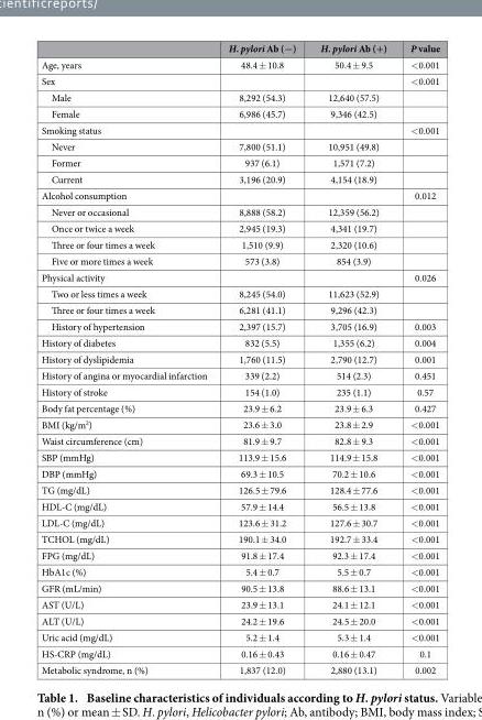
<table><thead><tr><td></td><td>H. pylori Ab (−)</td><td>H. pylori Ab (+)</td><td>P value</td></tr></thead><tbody><tr><td>Age, years</td><td>48.4 ± 10.8</td><td>50.4 ± 9.5</td><td>&lt; 0.001</td></tr><tr><td>Sex</td><td></td><td></td><td>&lt; 0.001</td></tr><tr><td>Male</td><td>8,292 (54.3)</td><td>12,640 (57.5)</td><td></td></tr><tr><td>Female</td><td>6,986 (45.7)</td><td>9,346 (42.5)</td><td></td></tr><tr><td>Smoking status</td><td></td><td></td><td>&lt; 0.001</td></tr><tr><td>Never</td><td>7,800 (51.1)</td><td>10,951 (49.8)</td><td></td></tr><tr><td>Former</td><td>937 (6.1)</td><td>1,571 (7.2)</td><td></td></tr><tr><td>Current</td><td>3,196 (20.9)</td><td>4,154 (18.9)</td><td></td></tr><tr><td>Alcohol consumption</td><td></td><td></td><td>0.012</td></tr><tr><td>Never or occasional</td><td>8,888 (58.2)</td><td>12,359 (56.2)</td><td></td></tr><tr><td>Once or twice a week</td><td>2,945 (19.3)</td><td>4,341 (19.7)</td><td></td></tr><tr><td>Three or four times a week</td><td>1,510 (9.9)</td><td>2,320 (10.6)</td><td></td></tr><tr><td>Five or more times a week</td><td>573 (3.8)</td><td>854 (3.9)</td><td></td></tr><tr><td>Physical activity</td><td></td><td></td><td>0.026</td></tr><tr><td>Two or less times a week</td><td>8,245 (54.0)</td><td>11,623 (52.9)</td><td></td></tr><tr><td>Three or four times a week</td><td>6,281 (41.1)</td><td>9,296 (42.3)</td><td></td></tr><tr><td>History of hypertension</td><td>2,397 (15.7)</td><td>3,705 (16.9)</td><td>0.003</td></tr><tr><td>History of diabetes</td><td>832 (5.5)</td><td>1,355 (6.2)</td><td>0.004</td></tr><tr><td>History of dyslipidemia</td><td>1,760 (11.5)</td><td>2,790 (12.7)</td><td>0.001</td></tr><tr><td>History of angina or myocardial infarction</td><td>339 (2.2)</td><td>514 (2.3)</td><td>0.451</td></tr><tr><td>History of stroke</td><td>154 (1.0)</td><td>235 (1.1)</td><td>0.57</td></tr><tr><td>Body fat percentage (%)</td><td>23.9 ± 6.2</td><td>23.9 ± 6.3</td><td>0.427</td></tr><tr><td>BMI (kg/m<sup>2</sup>)</td><td>23.6 ± 3.0</td><td>23.8 ± 2.9</td><td>&lt; 0.001</td></tr><tr><td>Waist circumference (cm)</td><td>81.9 ± 9.7</td><td>82.8 ± 9.3</td><td>&lt; 0.001</td></tr><tr><td>SBP (mmHg)</td><td>113.9 ± 15.6</td><td>114.9 ± 15.8</td><td>&lt; 0.001</td></tr><tr><td>DBP (mmHg)</td><td>69.3 ± 10.5</td><td>70.2 ± 10.6</td><td>&lt; 0.001</td></tr><tr><td>TG (mg/dL)</td><td>126.5 ± 79.6</td><td>128.4 ± 77.6</td><td>&lt; 0.001</td></tr><tr><td>HDL-C (mg/dL)</td><td>57.9 ± 14.4</td><td>56.5 ± 13.8</td><td>&lt; 0.001</td></tr><tr><td>LDL-C (mg/dL)</td><td>123.6 ± 31.2</td><td>127.6 ± 30.7</td><td>&lt; 0.001</td></tr><tr><td>TCHOL (mg/dL)</td><td>190.1 ± 34.0</td><td>192.7 ± 33.4</td><td>&lt; 0.001</td></tr><tr><td>FPG (mg/dL)</td><td>91.8 ± 17.4</td><td>92.3 ± 17.4</td><td>&lt; 0.001</td></tr><tr><td>HbA1c (%)</td><td>5.4 ± 0.7</td><td>5.5 ± 0.7</td><td>&lt; 0.001</td></tr><tr><td>GFR (mL/min)</td><td>90.5 ± 13.8</td><td>88.6 ± 13.1</td><td>&lt; 0.001</td></tr><tr><td>AST (U/L)</td><td>23.9 ± 13.1</td><td>24.1 ± 12.1</td><td>&lt; 0.001</td></tr><tr><td>ALT (U/L)</td><td>24.2 ± 19.6</td><td>24.5 ± 20.0</td><td>&lt; 0.001</td></tr><tr><td>Uric acid (mg/dL)</td><td>5.2 ± 1.4</td><td>5.3 ± 1.4</td><td>&lt; 0.001</td></tr><tr><td>HS-CRP (mg/dL)</td><td>0.16 ± 0.43</td><td>0.16 ± 0.47</td><td>0.1</td></tr><tr><td>Metabolic syndrome, n (%)</td><td>1,837 (12.0)</td><td>2,880 (13.1)</td><td>0.002</td></tr></tbody></table>